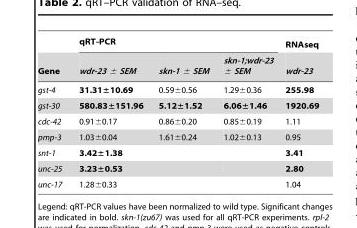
<table><thead><tr><td rowspan="2">Gene</td><td colspan="3">qRT-PCR</td><td rowspan="2">RNAseq wdr-23</td></tr><tr><td>wdr-23 ± SEM</td><td>skn-1 ± SEM</td><td>skn-1;wdr-23 ± SEM</td></tr></thead><tbody><tr><td>gst-4</td><td>31.31±10.69</td><td>0.59±0.56</td><td>1.29±0.36</td><td>255.98</td></tr><tr><td>gst-30</td><td>580.83±151.96</td><td>5.12±1.52</td><td>6.06±1.46</td><td>1920.69</td></tr><tr><td>cdc-42</td><td>0.91±0.17</td><td>0.86±0.20</td><td>0.85±0.19</td><td>1.11</td></tr><tr><td>pmp-3</td><td>1.03±0.04</td><td>1.61±0.24</td><td>1.02±0.13</td><td>0.95</td></tr><tr><td>snt-1</td><td>3.42±1.38</td><td></td><td></td><td>3.41</td></tr><tr><td>unc-25</td><td>3.23±0.53</td><td></td><td></td><td>2.80</td></tr><tr><td>unc-17</td><td>1.28±0.33</td><td></td><td></td><td>1.04</td></tr></tbody></table>